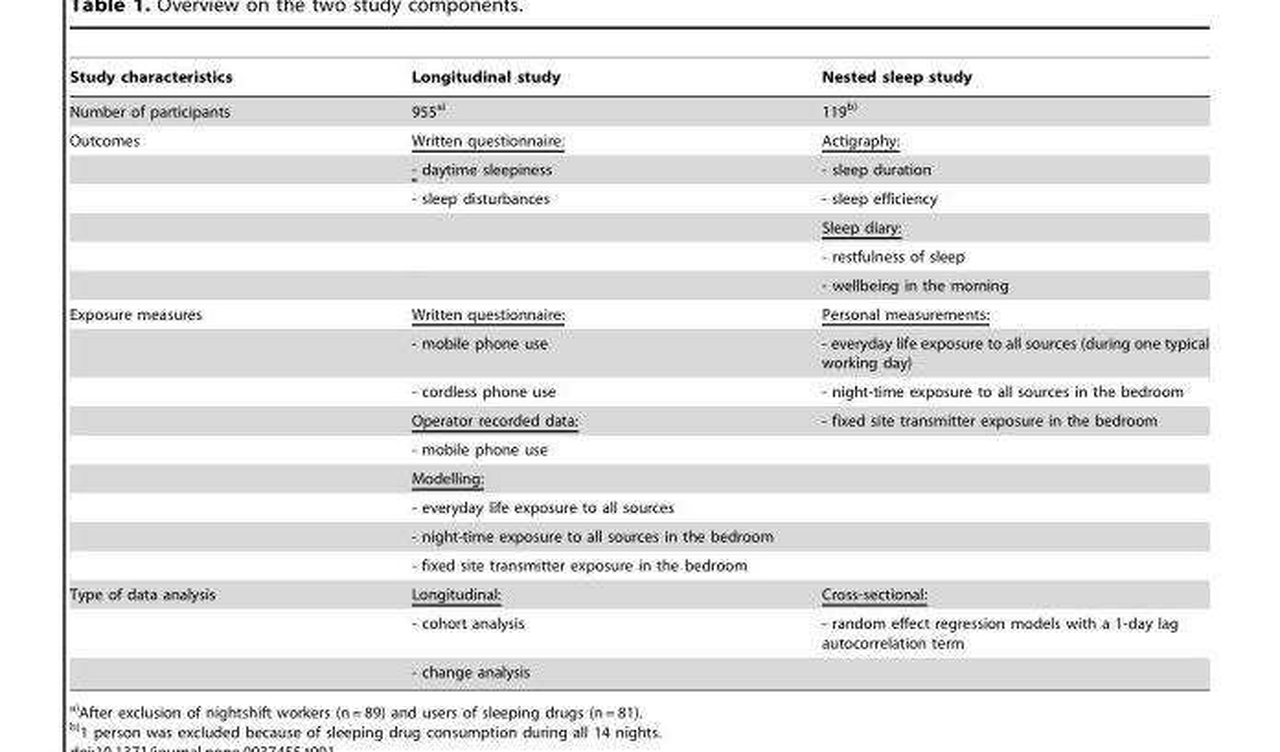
<table><thead><tr><td>Study characteristics</td><td>Longitudinal study</td><td>Nested sleep study</td></tr></thead><tbody><tr><td>Number of participants</td><td>955a)</td><td>119b)</td></tr><tr><td rowspan="6">Outcomes</td><td>Written questionnaire:</td><td>Actigraphy:</td></tr><tr><td>- daytime sleepiness</td><td>- sleep duration</td></tr><tr><td>- sleep disturbances</td><td>- sleep efficiency</td></tr><tr><td></td><td>Sleep diary:</td></tr><tr><td></td><td>- restfulness of sleep</td></tr><tr><td></td><td>- wellbeing in the morning</td></tr><tr><td rowspan="9">Exposure measures</td><td>Written questionnaire:</td><td>Personal measurements:</td></tr><tr><td>- mobile phone use</td><td>- everyday life exposure to all sources (during one typical working day)</td></tr><tr><td>- cordless phone use</td><td>- night-time exposure to all sources in the bedroom</td></tr><tr><td>Operator recorded data:</td><td>- fixed site transmitter exposure in the bedroom</td></tr><tr><td>- mobile phone use</td><td></td></tr><tr><td>Modelling:</td><td></td></tr><tr><td>- everyday life exposure to all sources</td><td></td></tr><tr><td>- night-time exposure to all sources in the bedroom</td><td></td></tr><tr><td>- fixed site transmitter exposure in the bedroom</td><td></td></tr><tr><td rowspan="3">Type of data analysis</td><td>Longitudinal:</td><td>Cross-sectional:</td></tr><tr><td>- cohort analysis</td><td>- random effect regression models with a 1-day lag autocorrelation term</td></tr><tr><td>- change analysis</td><td></td></tr></tbody></table>